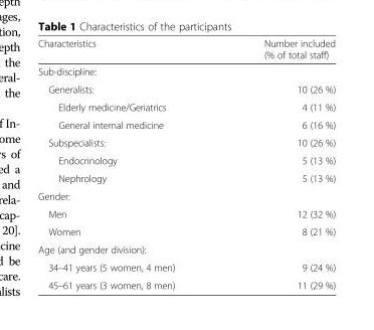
<table><thead><tr><td>Characteristics</td><td>Number included (% of total staff)</td></tr></thead><tbody><tr><td colspan="2">Sub-discipline:</td></tr><tr><td>Generalists:</td><td>10 (26 %)</td></tr><tr><td>Elderly medicine/Geriatrics</td><td>4 (11 %)</td></tr><tr><td>General internal medicine</td><td>6 (16 %)</td></tr><tr><td>Subspecialists:</td><td>10 (26 %)</td></tr><tr><td>Endocrinology</td><td>5 (13 %)</td></tr><tr><td>Nephrology</td><td>5 (13 %)</td></tr><tr><td colspan="2">Gender:</td></tr><tr><td>Men</td><td>12 (32 %)</td></tr><tr><td>Women</td><td>8 (21 %)</td></tr><tr><td colspan="2">Age (and gender division):</td></tr><tr><td>34–41 years (5 women, 4 men)</td><td>9 (24 %)</td></tr><tr><td>45–61 years (3 women, 8 men)</td><td>11 (29 %)</td></tr></tbody></table>